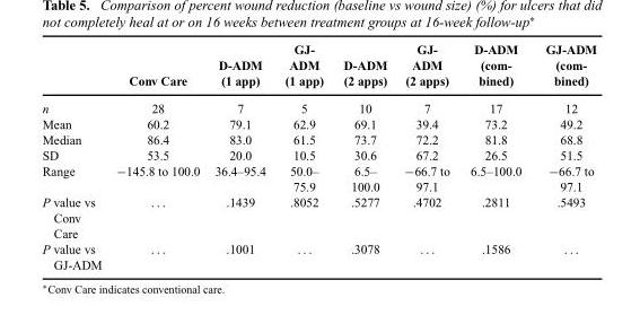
<table><thead><tr><td></td><td>Conv Care</td><td>D-ADM (1 app)</td><td>GJ- ADM (1 app)</td><td>D-ADM (2 apps)</td><td>GJ- ADM (2 apps)</td><td>D-ADM (com- bined)</td><td>GJ-ADM (com- bined)</td></tr></thead><tbody><tr><td>n</td><td>28</td><td>7</td><td>5</td><td>10</td><td>7</td><td>17</td><td>12</td></tr><tr><td>Mean</td><td>60.2</td><td>79.1</td><td>62.9</td><td>69.1</td><td>39.4</td><td>73.2</td><td>49.2</td></tr><tr><td>Median</td><td>86.4</td><td>83.0</td><td>61.5</td><td>73.7</td><td>72.2</td><td>81.8</td><td>68.8</td></tr><tr><td>SD</td><td>53.5</td><td>20.0</td><td>10.5</td><td>30.6</td><td>67.2</td><td>26.5</td><td>51.5</td></tr><tr><td>Range</td><td>−145.8 to 100.0</td><td>36.4–95.4</td><td>50.0– 75.9</td><td>6.5– 100.0</td><td>−66.7 to 97.1</td><td>6.5–100.0</td><td>−66.7 to 97.1</td></tr><tr><td>P value vs Conv Care</td><td>. . .</td><td>.1439</td><td>.8052</td><td>.5277</td><td>.4702</td><td>.2811</td><td>.5493</td></tr><tr><td>P value vs GJ-ADM</td><td>. . .</td><td>.1001</td><td>. . .</td><td>.3078</td><td>. . .</td><td>.1586</td><td>. . .</td></tr></tbody></table>